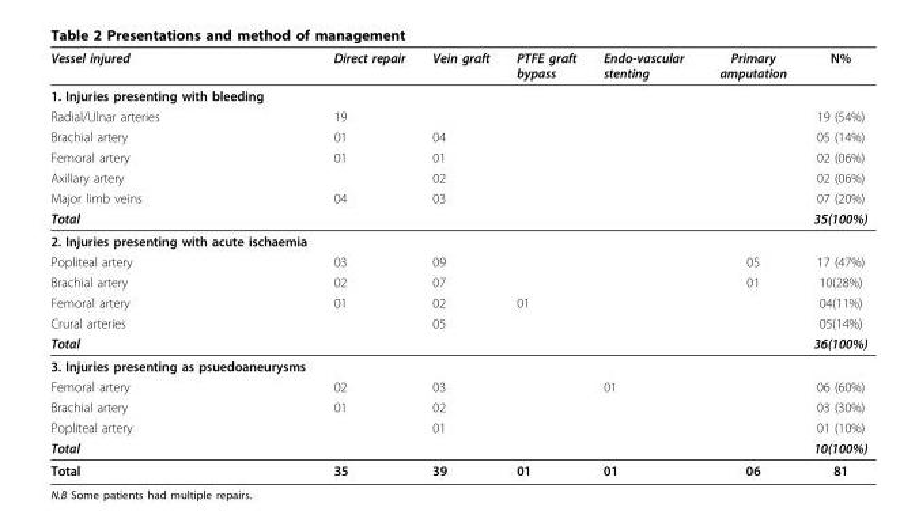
<table><thead><tr><td>Vessel injured</td><td>Direct repair</td><td>Vein graft</td><td>PTFE graft bypass</td><td>Endo-vascular stenting</td><td>Primary amputation</td><td>N%</td></tr></thead><tbody><tr><td colspan="7">1. Injuries presenting with bleeding</td></tr><tr><td>Radial/Ulnar arteries</td><td>19</td><td></td><td></td><td></td><td></td><td>19 (54%)</td></tr><tr><td>Brachial artery</td><td>01</td><td>04</td><td></td><td></td><td></td><td>05 (14%)</td></tr><tr><td>Femoral artery</td><td>01</td><td>01</td><td></td><td></td><td></td><td>02 (06%)</td></tr><tr><td>Axillary artery</td><td></td><td>02</td><td></td><td></td><td></td><td>02 (06%)</td></tr><tr><td>Major limb veins</td><td>04</td><td>03</td><td></td><td></td><td></td><td>07 (20%)</td></tr><tr><td>Total</td><td></td><td></td><td></td><td></td><td></td><td>35(100%)</td></tr><tr><td colspan="7">2. Injuries presenting with acute ischaemia</td></tr><tr><td>Popliteal artery</td><td>03</td><td>09</td><td></td><td></td><td>05</td><td>17 (47%)</td></tr><tr><td>Brachial artery</td><td>02</td><td>07</td><td></td><td></td><td>01</td><td>10(28%)</td></tr><tr><td>Femoral artery</td><td>01</td><td>02</td><td>01</td><td></td><td></td><td>04(11%)</td></tr><tr><td>Crural arteries</td><td></td><td>05</td><td></td><td></td><td></td><td>05(14%)</td></tr><tr><td>Total</td><td></td><td></td><td></td><td></td><td></td><td>36(100%)</td></tr><tr><td colspan="7">3. Injuries presenting as psuedoaneurysms</td></tr><tr><td>Femoral artery</td><td>02</td><td>03</td><td></td><td>01</td><td></td><td>06 (60%)</td></tr><tr><td>Brachial artery</td><td>01</td><td>02</td><td></td><td></td><td></td><td>03 (30%)</td></tr><tr><td>Popliteal artery</td><td></td><td>01</td><td></td><td></td><td></td><td>01 (10%)</td></tr><tr><td>Total</td><td></td><td></td><td></td><td></td><td></td><td>10(100%)</td></tr><tr><td>Total</td><td>35</td><td>39</td><td>01</td><td>01</td><td>06</td><td>81</td></tr></tbody></table>